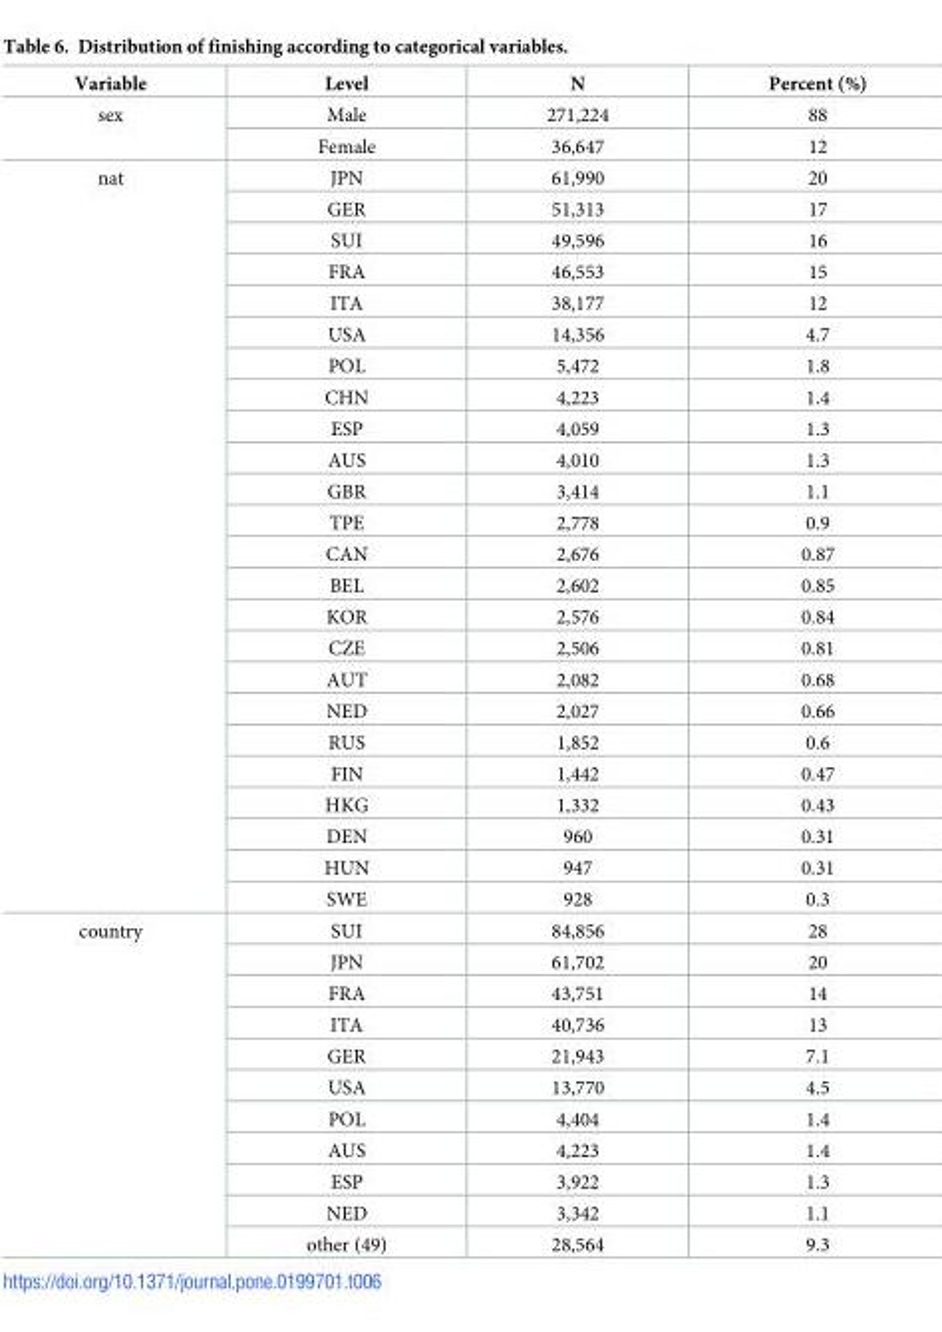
<table><thead><tr><td>Variable</td><td>Level</td><td>N</td><td>Percent (%)</td></tr></thead><tbody><tr><td rowspan="2">sex</td><td>Male</td><td>271,224</td><td>88</td></tr><tr><td>Female</td><td>36,647</td><td>12</td></tr><tr><td rowspan="24">nat</td><td>JPN</td><td>61,990</td><td>20</td></tr><tr><td>GER</td><td>51,313</td><td>17</td></tr><tr><td>SUI</td><td>49,596</td><td>16</td></tr><tr><td>FRA</td><td>46,553</td><td>15</td></tr><tr><td>ITA</td><td>38,177</td><td>12</td></tr><tr><td>USA</td><td>14,356</td><td>4.7</td></tr><tr><td>POL</td><td>5,472</td><td>1.8</td></tr><tr><td>CHN</td><td>4,223</td><td>1.4</td></tr><tr><td>ESP</td><td>4,059</td><td>1.3</td></tr><tr><td>AUS</td><td>4,010</td><td>1.3</td></tr><tr><td>GBR</td><td>3,414</td><td>1.1</td></tr><tr><td>TPE</td><td>2,778</td><td>0.9</td></tr><tr><td>CAN</td><td>2,676</td><td>0.87</td></tr><tr><td>BEL</td><td>2,602</td><td>0.85</td></tr><tr><td>KOR</td><td>2,576</td><td>0.84</td></tr><tr><td>CZE</td><td>2,506</td><td>0.81</td></tr><tr><td>AUT</td><td>2,082</td><td>0.68</td></tr><tr><td>NED</td><td>2,027</td><td>0.66</td></tr><tr><td>RUS</td><td>1,852</td><td>0.6</td></tr><tr><td>FIN</td><td>1,442</td><td>0.47</td></tr><tr><td>HKG</td><td>1,332</td><td>0.43</td></tr><tr><td>DEN</td><td>960</td><td>0.31</td></tr><tr><td>HUN</td><td>947</td><td>0.31</td></tr><tr><td>SWE</td><td>928</td><td>0.3</td></tr><tr><td rowspan="11">country</td><td>SUI</td><td>84,856</td><td>28</td></tr><tr><td>JPN</td><td>61,702</td><td>20</td></tr><tr><td>FRA</td><td>43,751</td><td>14</td></tr><tr><td>ITA</td><td>40,736</td><td>13</td></tr><tr><td>GER</td><td>21,943</td><td>7.1</td></tr><tr><td>USA</td><td>13,770</td><td>4.5</td></tr><tr><td>POL</td><td>4,404</td><td>1.4</td></tr><tr><td>AUS</td><td>4,223</td><td>1.4</td></tr><tr><td>ESP</td><td>3,922</td><td>1.3</td></tr><tr><td>NED</td><td>3,342</td><td>1.1</td></tr><tr><td>other (49)</td><td>28,564</td><td>9.3</td></tr></tbody></table>